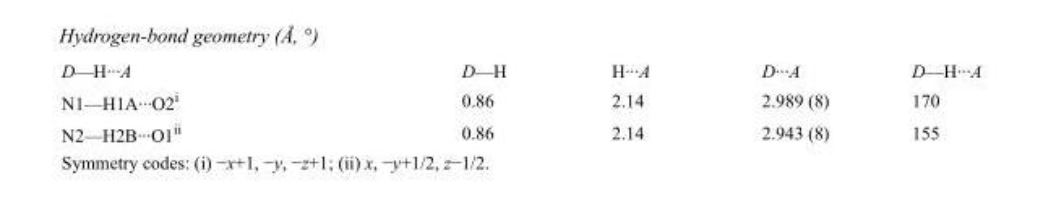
<table><tbody><tr><td>D—H···A</td><td>D—H</td><td>H···A</td><td>D···A</td><td>D—H···A</td></tr><tr><td>N1—H1A···O2<sup>i</sup></td><td>0.86</td><td>2.14</td><td>2.989 (8)</td><td>170</td></tr><tr><td>N2—H2B···O1<sup>ii</sup></td><td>0.86</td><td>2.14</td><td>2.943 (8)</td><td>155</td></tr></tbody></table>